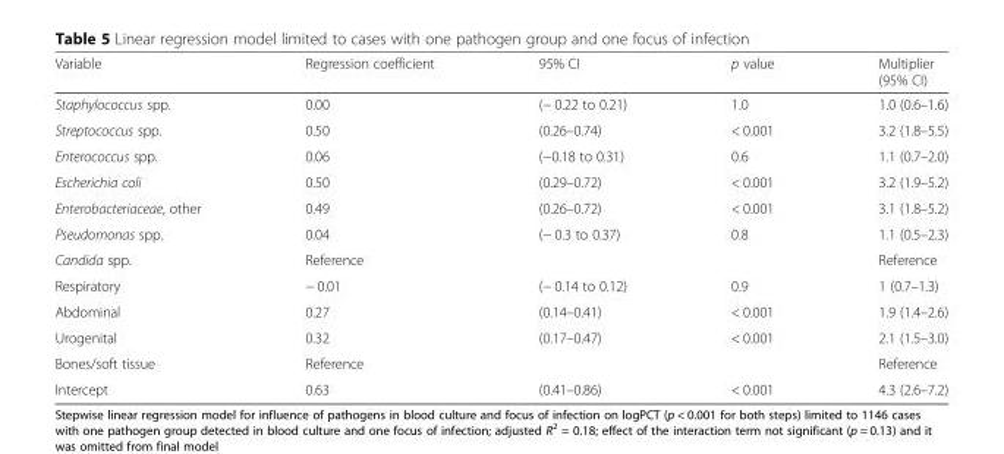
<table><thead><tr><td>Variable</td><td>Regression coefficient</td><td>95% CI</td><td>p value</td><td>Multiplier (95% CI)</td></tr></thead><tbody><tr><td>Staphylococcus spp.</td><td>0.00</td><td>(− 0.22 to 0.21)</td><td>1.0</td><td>1.0 (0.6–1.6)</td></tr><tr><td>Streptococcus spp.</td><td>0.50</td><td>(0.26–0.74)</td><td>&lt; 0.001</td><td>3.2 (1.8–5.5)</td></tr><tr><td>Enterococcus spp.</td><td>0.06</td><td>(−0.18 to 0.31)</td><td>0.6</td><td>1.1 (0.7–2.0)</td></tr><tr><td>Escherichia coli</td><td>0.50</td><td>(0.29–0.72)</td><td>&lt; 0.001</td><td>3.2 (1.9–5.2)</td></tr><tr><td>Enterobacteriaceae, other</td><td>0.49</td><td>(0.26–0.72)</td><td>&lt; 0.001</td><td>3.1 (1.8–5.2)</td></tr><tr><td>Pseudomonas spp.</td><td>0.04</td><td>(− 0.3 to 0.37)</td><td>0.8</td><td>1.1 (0.5–2.3)</td></tr><tr><td>Candida spp.</td><td>Reference</td><td></td><td></td><td>Reference</td></tr><tr><td>Respiratory</td><td>− 0.01</td><td>(− 0.14 to 0.12)</td><td>0.9</td><td>1 (0.7–1.3)</td></tr><tr><td>Abdominal</td><td>0.27</td><td>(0.14–0.41)</td><td>&lt; 0.001</td><td>1.9 (1.4–2.6)</td></tr><tr><td>Urogenital</td><td>0.32</td><td>(0.17–0.47)</td><td>&lt; 0.001</td><td>2.1 (1.5–3.0)</td></tr><tr><td>Bones/soft tissue</td><td>Reference</td><td></td><td></td><td>Reference</td></tr><tr><td>Intercept</td><td>0.63</td><td>(0.41–0.86)</td><td>&lt; 0.001</td><td>4.3 (2.6–7.2)</td></tr></tbody></table>